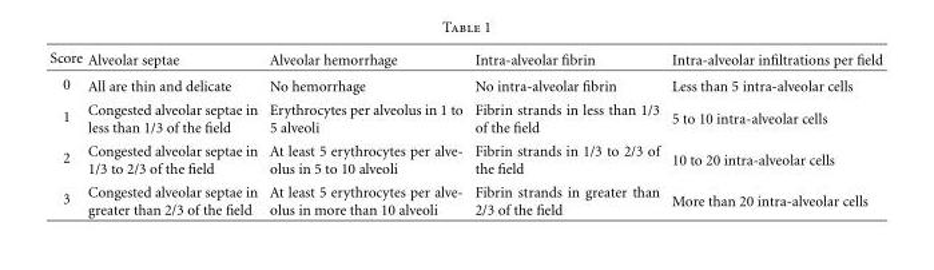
<table><thead><tr><td>Score</td><td>Alveolar septae</td><td>Alveolar hemorrhage</td><td>Intra-alveolar fibrin</td><td>Intra-alveolar infiltrations per field</td></tr></thead><tbody><tr><td>0</td><td>All are thin and delicate</td><td>No hemorrhage</td><td>No intra-alveolar fibrin</td><td>Less than 5 intra-alveolar cells</td></tr><tr><td>1</td><td>Congested alveolar septae in less than 1/3 of the field</td><td>Erythrocytes per alveolus in 1 to 5 alveoli</td><td>Fibrin strands in less than 1/3 of the field</td><td>5 to 10 intra-alveolar cells</td></tr><tr><td>2</td><td>Congested alveolar septae in 1/3 to 2/3 of the field</td><td>At least 5 erythrocytes per alve- olus in 5 to 10 alveoli</td><td>Fibrin strands in 1/3 to 2/3 of the field</td><td>10 to 20 intra-alveolar cells</td></tr><tr><td>3</td><td>Congested alveolar septae in greater than 2/3 of the field</td><td>At least 5 erythrocytes per alve- olus in more than 10 alveoli</td><td>Fibrin strands in greater than 2/3 of the field</td><td>More than 20 intra-alveolar cells</td></tr></tbody></table>